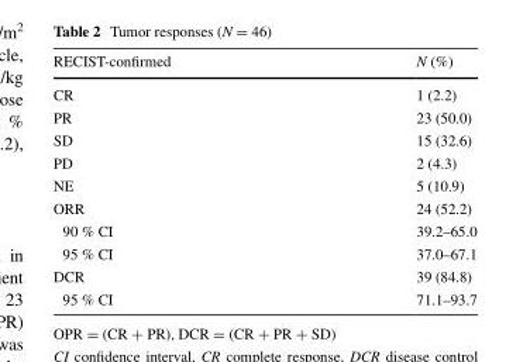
<table><thead><tr><td>RECIST-confirmed</td><td>N (%)</td></tr></thead><tbody><tr><td>CR</td><td>1 (2.2)</td></tr><tr><td>PR</td><td>23 (50.0)</td></tr><tr><td>SD</td><td>15 (32.6)</td></tr><tr><td>PD</td><td>2 (4.3)</td></tr><tr><td>NE</td><td>5 (10.9)</td></tr><tr><td>ORR</td><td>24 (52.2)</td></tr><tr><td>90 % CI</td><td>39.2–65.0</td></tr><tr><td>95 % CI</td><td>37.0–67.1</td></tr><tr><td>DCR</td><td>39 (84.8)</td></tr><tr><td>95 % CI</td><td>71.1–93.7</td></tr></tbody></table>